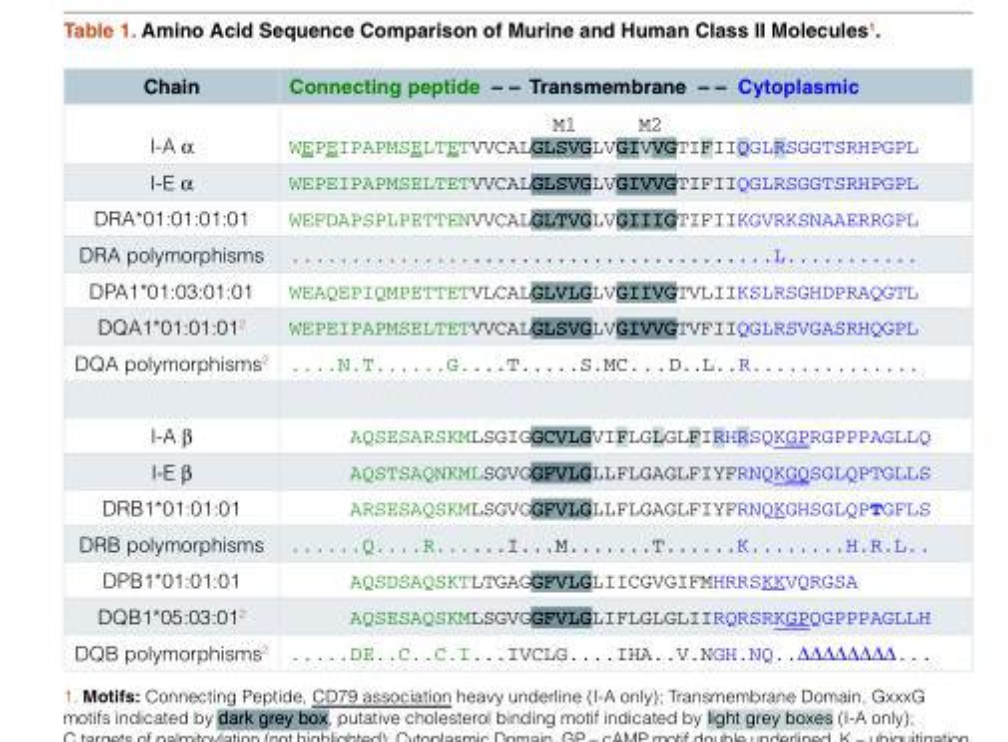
<table><thead><tr><td>Chain</td><td>Connecting peptide – – Transmembrane – – Cytoplasmic</td></tr></thead><tbody><tr><td>I-A α</td><td>M1 M2 WEPEIPAPMSELTETVVCALGLSVGLVGIVVGTIFIIQGLRSGGTSRHPGPL</td></tr><tr><td>I-E α</td><td>WEPEIPAPMSELTETVVCALGLSVGLVGIVVGTIFIIQGLRSGGTSRHPGPL</td></tr><tr><td>DRA*01:01:01:01</td><td>WEFDAPSPLPETTENVVCALGLTVGLVGIIIGTIFIIKGVRKSNAAERRGPL</td></tr><tr><td>DRA polymorphisms</td><td>........................................L...........</td></tr><tr><td>DPA1*01:03:01:01</td><td>WEAQEPIQMPETTETVLCALGLVLGLVGIIVGTVLIIKSLRSGHDPRAQGTL</td></tr><tr><td>DQA1*01:01:01<sup>2</sup></td><td>WEPEIPAPMSELTETVVCALGLSVGLVGIVVGTVFIIQGLRSVGASRHQGPL</td></tr><tr><td>DQA polymorphisms<sup>2</sup></td><td>....N.T......G....T.....S.MC...D..L..R..............</td></tr><tr><td>I-A β</td><td>AQSESARSKMLSGIGGCVLGVIFLGLGLFIRHRSQKGPRGPPPAGLLQ</td></tr><tr><td>I-E β</td><td>AQSTSAQNKMLSGVGGFVLGLLFLGAGLFIYFRNQKGQSGLQPTGLLS</td></tr><tr><td>DRB1*01:01:01</td><td>ARSESAQSKMLSGVGGFVLGLLFLGAGLFIYFRNQKGHSGLQPTGFLS</td></tr><tr><td>DRB polymorphisms</td><td>......Q....R......I...M.......T......K........H.R.L..</td></tr><tr><td>DPB1*01:01:01</td><td>AQSDSAQSKTLTGAGGFVLGLIICGVGIFMHRRSKKVQRGSA</td></tr><tr><td>DQB1*05:03:01<sup>2</sup></td><td>AQSESAQSKMLSGVGGFVLGLIFLGLGLIIRQRSRKGPQGPPPAGLLH</td></tr><tr><td>DQB polymorphisms<sup>2</sup></td><td>.....DE..C..C.I...IVCLG....IHA..V.NGH.NQ..∆∆∆∆∆∆∆∆...</td></tr></tbody></table>